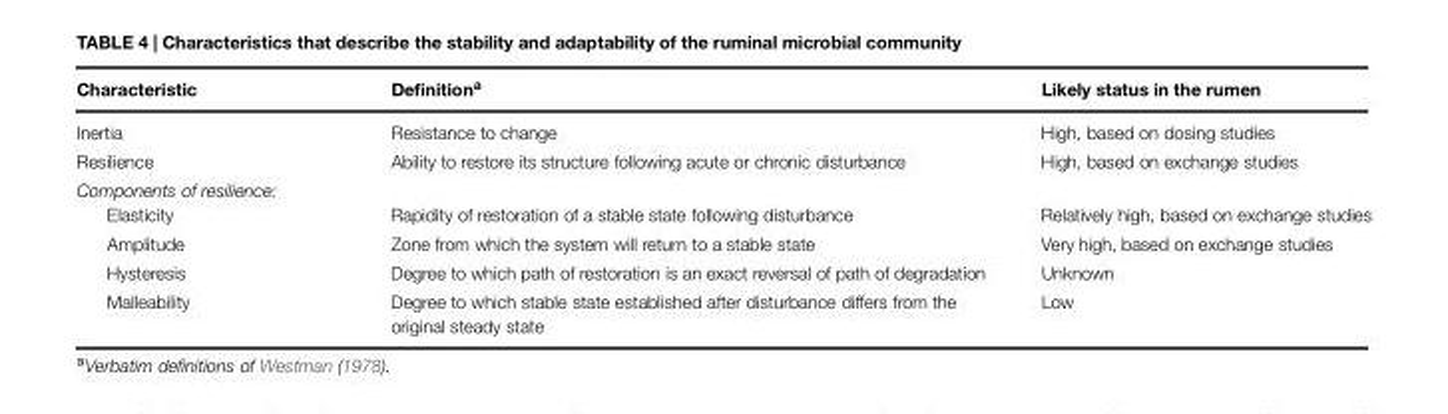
<table><thead><tr><td>Characteristic</td><td>Definition<sup>a</sup></td><td>Likely status in the rumen</td></tr></thead><tbody><tr><td>Inertia</td><td>Resistance to change</td><td>High, based on dosing studies</td></tr><tr><td>Resilience</td><td>Ability to restore its structure following acute or chronic disturbance</td><td>High, based on exchange studies</td></tr><tr><td colspan="3">Components of resilience:</td></tr><tr><td>Elasticity</td><td>Rapidity of restoration of a stable state following disturbance</td><td>Relatively high, based on exchange studies</td></tr><tr><td>Amplitude</td><td>Zone from which the system will return to a stable state</td><td>Very high, based on exchange studies</td></tr><tr><td>Hysteresis</td><td>Degree to which path of restoration is an exact reversal of path of degradation</td><td>Unknown</td></tr><tr><td>Malleability</td><td>Degree to which stable state established after disturbance differs from the original steady state</td><td>Low</td></tr></tbody></table>